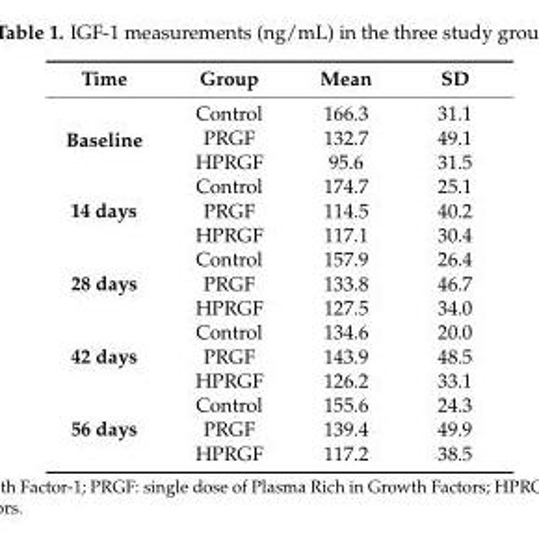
<table><thead><tr><td>Time</td><td>Group</td><td>Mean</td><td>SD</td></tr></thead><tbody><tr><td rowspan="3">Baseline</td><td>Control</td><td>166.3</td><td>31.1</td></tr><tr><td>PRGF</td><td>132.7</td><td>49.1</td></tr><tr><td>HPRGF</td><td>95.6</td><td>31.5</td></tr><tr><td rowspan="3">14 days</td><td>Control</td><td>174.7</td><td>25.1</td></tr><tr><td>PRGF</td><td>114.5</td><td>40.2</td></tr><tr><td>HPRGF</td><td>117.1</td><td>30.4</td></tr><tr><td rowspan="3">28 days</td><td>Control</td><td>157.9</td><td>26.4</td></tr><tr><td>PRGF</td><td>133.8</td><td>46.7</td></tr><tr><td>HPRGF</td><td>127.5</td><td>34.0</td></tr><tr><td rowspan="3">42 days</td><td>Control</td><td>134.6</td><td>20.0</td></tr><tr><td>PRGF</td><td>143.9</td><td>48.5</td></tr><tr><td>HPRGF</td><td>126.2</td><td>33.1</td></tr><tr><td rowspan="3">56 days</td><td>Control</td><td>155.6</td><td>24.3</td></tr><tr><td>PRGF</td><td>139.4</td><td>49.9</td></tr><tr><td>HPRGF</td><td>117.2</td><td>38.5</td></tr></tbody></table>